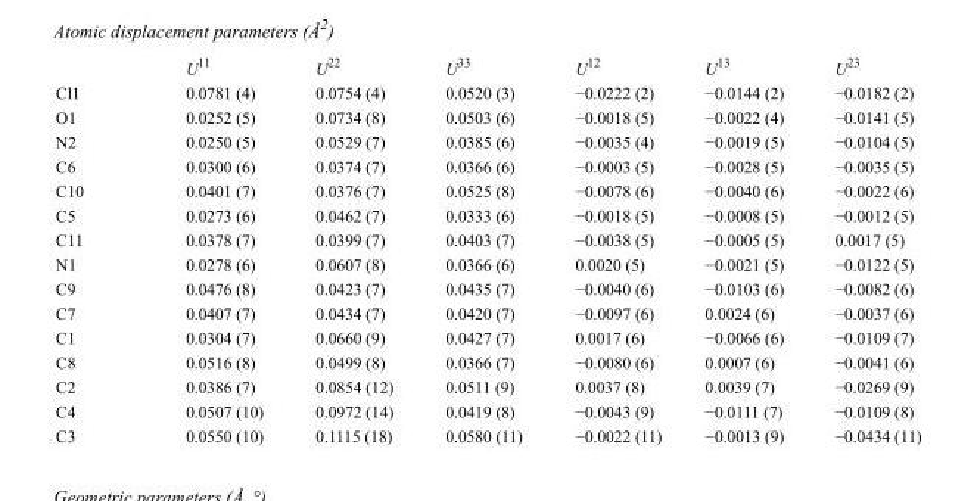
<table><thead><tr><td></td><td>U<sup>11</sup></td><td>U<sup>22</sup></td><td>U<sup>33</sup></td><td>U<sup>12</sup></td><td>U<sup>13</sup></td><td>U<sup>23</sup></td></tr></thead><tbody><tr><td>Cl1</td><td>0.0781 (4)</td><td>0.0754 (4)</td><td>0.0520 (3)</td><td>−0.0222 (2)</td><td>−0.0144 (2)</td><td>−0.0182 (2)</td></tr><tr><td>O1</td><td>0.0252 (5)</td><td>0.0734 (8)</td><td>0.0503 (6)</td><td>−0.0018 (5)</td><td>−0.0022 (4)</td><td>−0.0141 (5)</td></tr><tr><td>N2</td><td>0.0250 (5)</td><td>0.0529 (7)</td><td>0.0385 (6)</td><td>−0.0035 (4)</td><td>−0.0019 (5)</td><td>−0.0104 (5)</td></tr><tr><td>C6</td><td>0.0300 (6)</td><td>0.0374 (7)</td><td>0.0366 (6)</td><td>−0.0003 (5)</td><td>−0.0028 (5)</td><td>−0.0035 (5)</td></tr><tr><td>C10</td><td>0.0401 (7)</td><td>0.0376 (7)</td><td>0.0525 (8)</td><td>−0.0078 (6)</td><td>−0.0040 (6)</td><td>−0.0022 (6)</td></tr><tr><td>C5</td><td>0.0273 (6)</td><td>0.0462 (7)</td><td>0.0333 (6)</td><td>−0.0018 (5)</td><td>−0.0008 (5)</td><td>−0.0012 (5)</td></tr><tr><td>C11</td><td>0.0378 (7)</td><td>0.0399 (7)</td><td>0.0403 (7)</td><td>−0.0038 (5)</td><td>−0.0005 (5)</td><td>0.0017 (5)</td></tr><tr><td>N1</td><td>0.0278 (6)</td><td>0.0607 (8)</td><td>0.0366 (6)</td><td>0.0020 (5)</td><td>−0.0021 (5)</td><td>−0.0122 (5)</td></tr><tr><td>C9</td><td>0.0476 (8)</td><td>0.0423 (7)</td><td>0.0435 (7)</td><td>−0.0040 (6)</td><td>−0.0103 (6)</td><td>−0.0082 (6)</td></tr><tr><td>C7</td><td>0.0407 (7)</td><td>0.0434 (7)</td><td>0.0420 (7)</td><td>−0.0097 (6)</td><td>0.0024 (6)</td><td>−0.0037 (6)</td></tr><tr><td>C1</td><td>0.0304 (7)</td><td>0.0660 (9)</td><td>0.0427 (7)</td><td>0.0017 (6)</td><td>−0.0066 (6)</td><td>−0.0109 (7)</td></tr><tr><td>C8</td><td>0.0516 (8)</td><td>0.0499 (8)</td><td>0.0366 (7)</td><td>−0.0080 (6)</td><td>0.0007 (6)</td><td>−0.0041 (6)</td></tr><tr><td>C2</td><td>0.0386 (7)</td><td>0.0854 (12)</td><td>0.0511 (9)</td><td>0.0037 (8)</td><td>0.0039 (7)</td><td>−0.0269 (9)</td></tr><tr><td>C4</td><td>0.0507 (10)</td><td>0.0972 (14)</td><td>0.0419 (8)</td><td>−0.0043 (9)</td><td>−0.0111 (7)</td><td>−0.0109 (8)</td></tr><tr><td>C3</td><td>0.0550 (10)</td><td>0.1115 (18)</td><td>0.0580 (11)</td><td>−0.0022 (11)</td><td>−0.0013 (9)</td><td>−0.0434 (11)</td></tr></tbody></table>